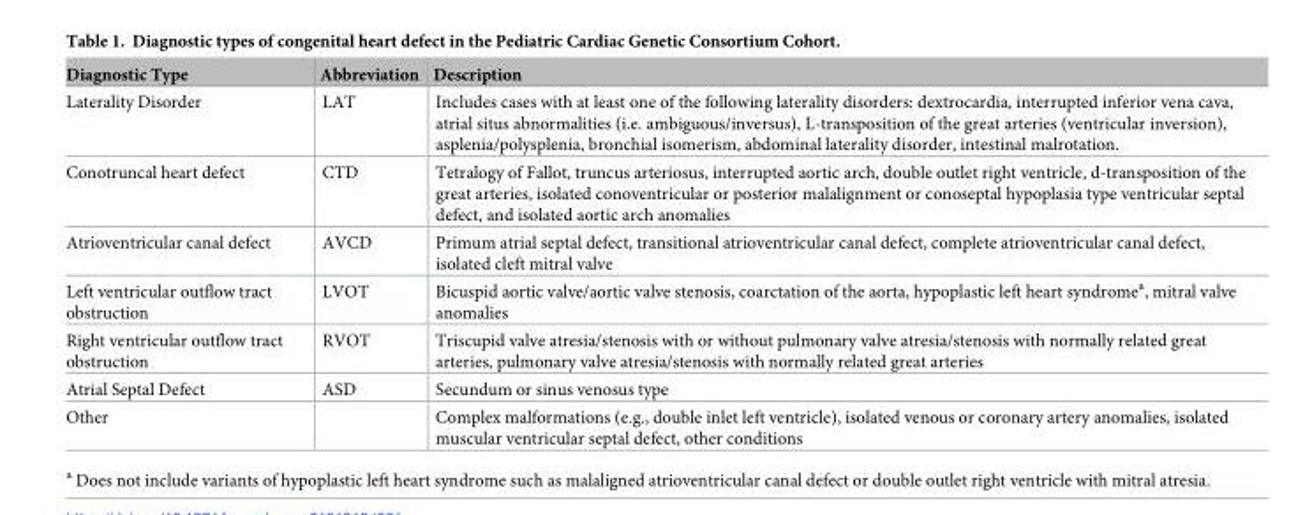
<table><thead><tr><td>Diagnostic Type</td><td>Abbreviation</td><td>Description</td></tr></thead><tbody><tr><td>Laterality Disorder</td><td>LAT</td><td>Includes cases with at least one of the following laterality disorders: dextrocardia, interrupted inferior vena cava, atrial situs abnormalities (i.e. ambiguous/inversus), L-transposition of the great arteries (ventricular inversion), asplenia/polysplenia, bronchial isomerism, abdominal laterality disorder, intestinal malrotation.</td></tr><tr><td>Conotruncal heart defect</td><td>CTD</td><td>Tetralogy of Fallot, truncus arteriosus, interrupted aortic arch, double outlet right ventricle, d-transposition of the great arteries, isolated conoventricular or posterior malalignment or conoseptal hypoplasia type ventricular septal defect, and isolated aortic arch anomalies</td></tr><tr><td>Atrioventricular canal defect</td><td>AVCD</td><td>Primum atrial septal defect, transitional atrioventricular canal defect, complete atrioventricular canal defect, isolated cleft mitral valve</td></tr><tr><td>Left ventricular outflow tract obstruction</td><td>LVOT</td><td>Bicuspid aortic valve/aortic valve stenosis, coarctation of the aorta, hypoplastic left heart syndrome<sup>a</sup>, mitral valve anomalies</td></tr><tr><td>Right ventricular outflow tract obstruction</td><td>RVOT</td><td>Triscupid valve atresia/stenosis with or without pulmonary valve atresia/stenosis with normally related great arteries, pulmonary valve atresia/stenosis with normally related great arteries</td></tr><tr><td>Atrial Septal Defect</td><td>ASD</td><td>Secundum or sinus venosus type</td></tr><tr><td>Other</td><td></td><td>Complex malformations (e.g., double inlet left ventricle), isolated venous or coronary artery anomalies, isolated muscular ventricular septal defect, other conditions</td></tr></tbody></table>